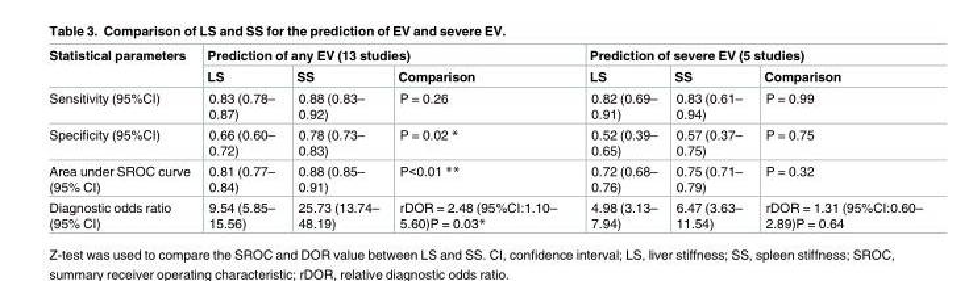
<table><thead><tr><td rowspan="2">Statistical parameters</td><td colspan="3">Prediction of any EV (13 studies)</td><td colspan="3">Prediction of severe EV (5 studies)</td></tr><tr><td>LS</td><td>SS</td><td>Comparison</td><td>LS</td><td>SS</td><td>Comparison</td></tr></thead><tbody><tr><td>Sensitivity (95%CI)</td><td>0.83 (0.78– 0.87)</td><td>0.88 (0.83– 0.92)</td><td>P = 0.26</td><td>0.82 (0.69– 0.91)</td><td>0.83 (0.61– 0.94)</td><td>P = 0.99</td></tr><tr><td>Specificity (95%CI)</td><td>0.66 (0.60– 0.72)</td><td>0.78 (0.73– 0.83)</td><td>P = 0.02 *</td><td>0.52 (0.39– 0.65)</td><td>0.57 (0.37– 0.75)</td><td>P = 0.75</td></tr><tr><td>Area under SROC curve (95% CI)</td><td>0.81 (0.77– 0.84)</td><td>0.88 (0.85– 0.91)</td><td>P&lt;0.01 **</td><td>0.72 (0.68– 0.76)</td><td>0.75 (0.71– 0.79)</td><td>P = 0.32</td></tr><tr><td>Diagnostic odds ratio (95% CI)</td><td>9.54 (5.85– 15.56)</td><td>25.73 (13.74– 48.19)</td><td>rDOR = 2.48 (95%CI:1.10– 5.60)P = 0.03*</td><td>4.98 (3.13– 7.94)</td><td>6.47 (3.63– 11.54)</td><td>rDOR = 1.31 (95%CI:0.60– 2.89)P = 0.64</td></tr></tbody></table>